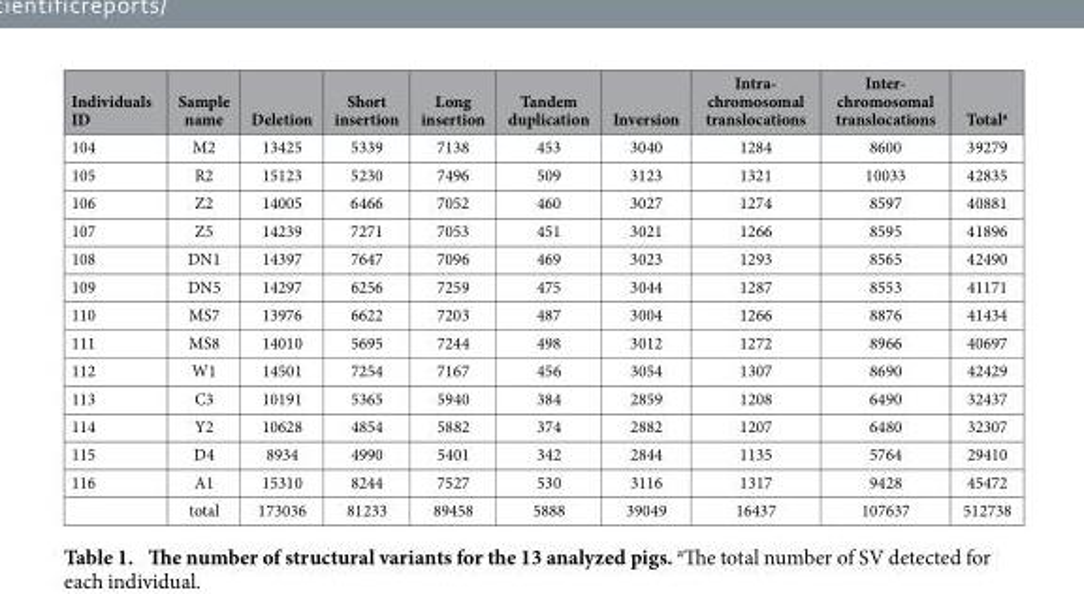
<table><thead><tr><td>Individuals ID</td><td>Sample name</td><td>Deletion</td><td>Short insertion</td><td>Long insertion</td><td>Tandem duplication</td><td>Inversion</td><td>Intra- chromosomal translocations</td><td>Inter- chromosomal translocations</td><td>Total<sup>a</sup></td></tr></thead><tbody><tr><td>104</td><td>M2</td><td>13425</td><td>5339</td><td>7138</td><td>453</td><td>3040</td><td>1284</td><td>8600</td><td>39279</td></tr><tr><td>105</td><td>R2</td><td>15123</td><td>5230</td><td>7496</td><td>509</td><td>3123</td><td>1321</td><td>10033</td><td>42835</td></tr><tr><td>106</td><td>Z2</td><td>14005</td><td>6466</td><td>7052</td><td>460</td><td>3027</td><td>1274</td><td>8597</td><td>40881</td></tr><tr><td>107</td><td>Z5</td><td>14239</td><td>7271</td><td>7053</td><td>451</td><td>3021</td><td>1266</td><td>8595</td><td>41896</td></tr><tr><td>108</td><td>DN1</td><td>14397</td><td>7647</td><td>7096</td><td>469</td><td>3023</td><td>1293</td><td>8565</td><td>42490</td></tr><tr><td>109</td><td>DN5</td><td>14297</td><td>6256</td><td>7259</td><td>475</td><td>3044</td><td>1287</td><td>8553</td><td>41171</td></tr><tr><td>110</td><td>MS7</td><td>13976</td><td>6622</td><td>7203</td><td>487</td><td>3004</td><td>1266</td><td>8876</td><td>41434</td></tr><tr><td>111</td><td>MS8</td><td>14010</td><td>5695</td><td>7244</td><td>498</td><td>3012</td><td>1272</td><td>8966</td><td>40697</td></tr><tr><td>112</td><td>W1</td><td>14501</td><td>7254</td><td>7167</td><td>456</td><td>3054</td><td>1307</td><td>8690</td><td>42429</td></tr><tr><td>113</td><td>C3</td><td>10191</td><td>5365</td><td>5940</td><td>384</td><td>2859</td><td>1208</td><td>6490</td><td>32437</td></tr><tr><td>114</td><td>Y2</td><td>10628</td><td>4854</td><td>5882</td><td>374</td><td>2882</td><td>1207</td><td>6480</td><td>32307</td></tr><tr><td>115</td><td>D4</td><td>8934</td><td>4990</td><td>5401</td><td>342</td><td>2844</td><td>1135</td><td>5764</td><td>29410</td></tr><tr><td rowspan="2">116</td><td>A1</td><td>15310</td><td>8244</td><td>7527</td><td>530</td><td>3116</td><td>1317</td><td>9428</td><td>45472</td></tr><tr><td>total</td><td>173036</td><td>81233</td><td>89458</td><td>5888</td><td>39049</td><td>16437</td><td>107637</td><td>512738</td></tr></tbody></table>